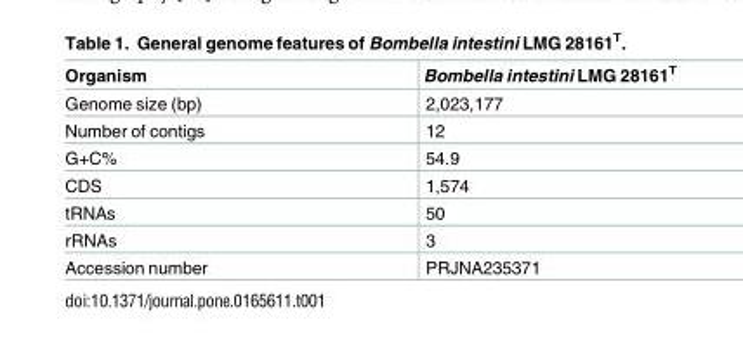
<table><thead><tr><td>Organism</td><td>Bombella intestini LMG 28161<sup>T</sup></td></tr></thead><tbody><tr><td>Genome size (bp)</td><td>2,023,177</td></tr><tr><td>Number of contigs</td><td>12</td></tr><tr><td>G+C%</td><td>54.9</td></tr><tr><td>CDS</td><td>1,574</td></tr><tr><td>tRNAs</td><td>50</td></tr><tr><td>rRNAs</td><td>3</td></tr><tr><td>Accession number</td><td>PRJNA235371</td></tr></tbody></table>